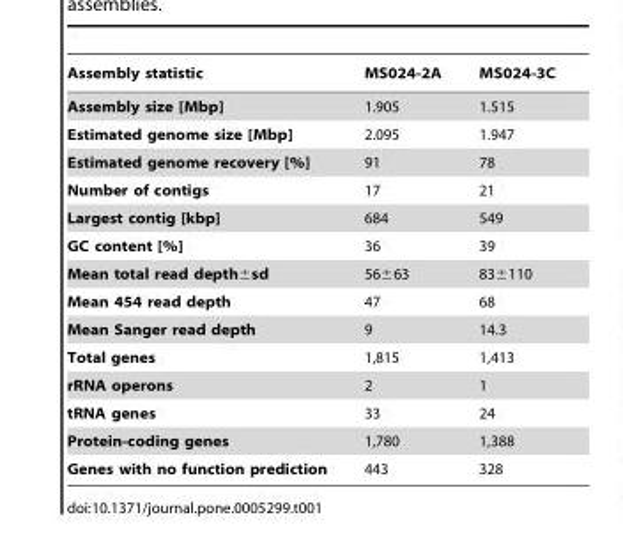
<table><thead><tr><td>Assembly statistic</td><td>MS024-2A</td><td>MS024-3C</td></tr></thead><tbody><tr><td>Assembly size [Mbp]</td><td>1.905</td><td>1.515</td></tr><tr><td>Estimated genome size [Mbp]</td><td>2.095</td><td>1.947</td></tr><tr><td>Estimated genome recovery [%]</td><td>91</td><td>78</td></tr><tr><td>Number of contigs</td><td>17</td><td>21</td></tr><tr><td>Largest contig [kbp]</td><td>684</td><td>549</td></tr><tr><td>GC content [%]</td><td>36</td><td>39</td></tr><tr><td>Mean total read depth±sd</td><td>56±63</td><td>83±110</td></tr><tr><td>Mean 454 read depth</td><td>47</td><td>68</td></tr><tr><td>Mean Sanger read depth</td><td>9</td><td>14.3</td></tr><tr><td>Total genes</td><td>1,815</td><td>1,413</td></tr><tr><td>rRNA operons</td><td>2</td><td>1</td></tr><tr><td>tRNA genes</td><td>33</td><td>24</td></tr><tr><td>Protein-coding genes</td><td>1,780</td><td>1,388</td></tr><tr><td>Genes with no function prediction</td><td>443</td><td>328</td></tr></tbody></table>